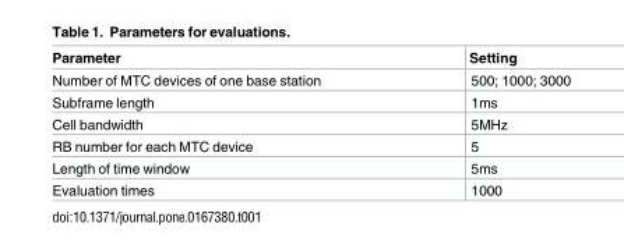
<table><thead><tr><td>Parameter</td><td>Setting</td></tr></thead><tbody><tr><td>Number of MTC devices of one base station</td><td>500; 1000; 3000</td></tr><tr><td>Subframe length</td><td>1ms</td></tr><tr><td>Cell bandwidth</td><td>5MHz</td></tr><tr><td>RB number for each MTC device</td><td>5</td></tr><tr><td>Length of time window</td><td>5ms</td></tr><tr><td>Evaluation times</td><td>1000</td></tr></tbody></table>